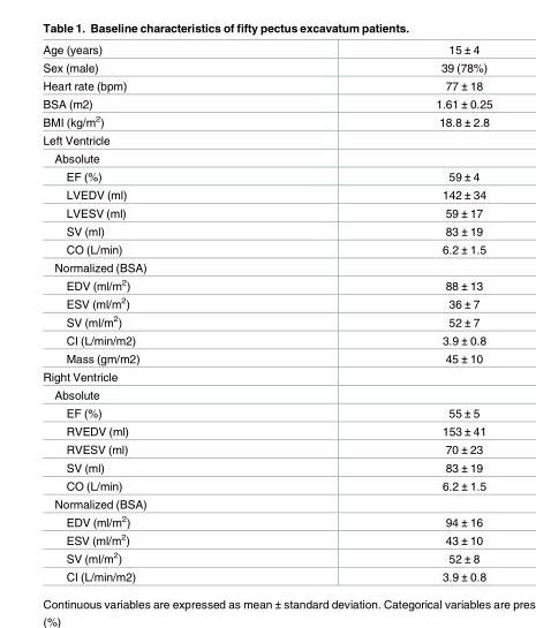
<table><tbody><tr><td>Age (years)</td><td>15 ± 4</td></tr><tr><td>Sex (male)</td><td>39 (78%)</td></tr><tr><td>Heart rate (bpm)</td><td>77 ± 18</td></tr><tr><td>BSA (m2)</td><td>1.61 ± 0.25</td></tr><tr><td>BMI (kg/m<sup>2</sup>)</td><td>18.8 ± 2.8</td></tr><tr><td colspan="2">Left Ventricle</td></tr><tr><td colspan="2">Absolute</td></tr><tr><td>EF (%)</td><td>59 ± 4</td></tr><tr><td>LVEDV (ml)</td><td>142 ± 34</td></tr><tr><td>LVESV (ml)</td><td>59 ± 17</td></tr><tr><td>SV (ml)</td><td>83 ± 19</td></tr><tr><td>CO (L/min)</td><td>6.2 ± 1.5</td></tr><tr><td colspan="2">Normalized (BSA)</td></tr><tr><td>EDV (ml/m<sup>2</sup>)</td><td>88 ± 13</td></tr><tr><td>ESV (ml/m<sup>2</sup>)</td><td>36 ± 7</td></tr><tr><td>SV (ml/m<sup>2</sup>)</td><td>52 ± 7</td></tr><tr><td>CI (L/min/m2)</td><td>3.9 ± 0.8</td></tr><tr><td>Mass (gm/m2)</td><td>45 ± 10</td></tr><tr><td colspan="2">Right Ventricle</td></tr><tr><td colspan="2">Absolute</td></tr><tr><td>EF (%)</td><td>55 ± 5</td></tr><tr><td>RVEDV (ml)</td><td>153 ± 41</td></tr><tr><td>RVESV (ml)</td><td>70 ± 23</td></tr><tr><td>SV (ml)</td><td>83 ± 19</td></tr><tr><td>CO (L/min)</td><td>6.2 ± 1.5</td></tr><tr><td colspan="2">Normalized (BSA)</td></tr><tr><td>EDV (ml/m<sup>2</sup>)</td><td>94 ± 16</td></tr><tr><td>ESV (ml/m<sup>2</sup>)</td><td>43 ± 10</td></tr><tr><td>SV (ml/m<sup>2</sup>)</td><td>52 ± 8</td></tr><tr><td>CI (L/min/m2)</td><td>3.9 ± 0.8</td></tr></tbody></table>